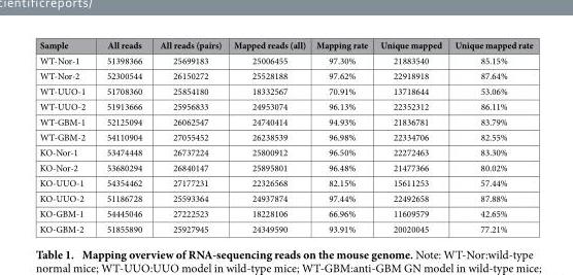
<table><thead><tr><td>Sample</td><td>All reads</td><td>All reads (pairs)</td><td>Mapped reads (all)</td><td>Mapping rate</td><td>Unique mapped</td><td>Unique mapped rate</td></tr></thead><tbody><tr><td>WT-Nor-1</td><td>51398366</td><td>25699183</td><td>25006455</td><td>97.30%</td><td>21883540</td><td>85.15%</td></tr><tr><td>WT-Nor-2</td><td>52300544</td><td>26150272</td><td>25528188</td><td>97.62%</td><td>22918918</td><td>87.64%</td></tr><tr><td>WT-UUO-1</td><td>51708360</td><td>25854180</td><td>18332567</td><td>70.91%</td><td>13718644</td><td>53.06%</td></tr><tr><td>WT-UUO-2</td><td>51913666</td><td>25956833</td><td>24953074</td><td>96.13%</td><td>22352312</td><td>86.11%</td></tr><tr><td>WT-GBM-1</td><td>52125094</td><td>26062547</td><td>24740414</td><td>94.93%</td><td>21836781</td><td>83.79%</td></tr><tr><td>WT-GBM-2</td><td>54110904</td><td>27055452</td><td>26238539</td><td>96.98%</td><td>22334706</td><td>82.55%</td></tr><tr><td>KO-Nor-1</td><td>53474448</td><td>26737224</td><td>25800912</td><td>96.50%</td><td>22272463</td><td>83.30%</td></tr><tr><td>KO-Nor-2</td><td>53680294</td><td>26840147</td><td>25895801</td><td>96.48%</td><td>21477366</td><td>80.02%</td></tr><tr><td>KO-UUO-1</td><td>54354462</td><td>27177231</td><td>22326568</td><td>82.15%</td><td>15611253</td><td>57.44%</td></tr><tr><td>KO-UUO-2</td><td>51186728</td><td>25593364</td><td>24937874</td><td>97.44%</td><td>22492658</td><td>87.88%</td></tr><tr><td>KO-GBM-1</td><td>54445046</td><td>27222523</td><td>18228106</td><td>66.96%</td><td>11609579</td><td>42.65%</td></tr><tr><td>KO-GBM-2</td><td>51855890</td><td>25927945</td><td>24349590</td><td>93.91%</td><td>20020045</td><td>77.21%</td></tr></tbody></table>